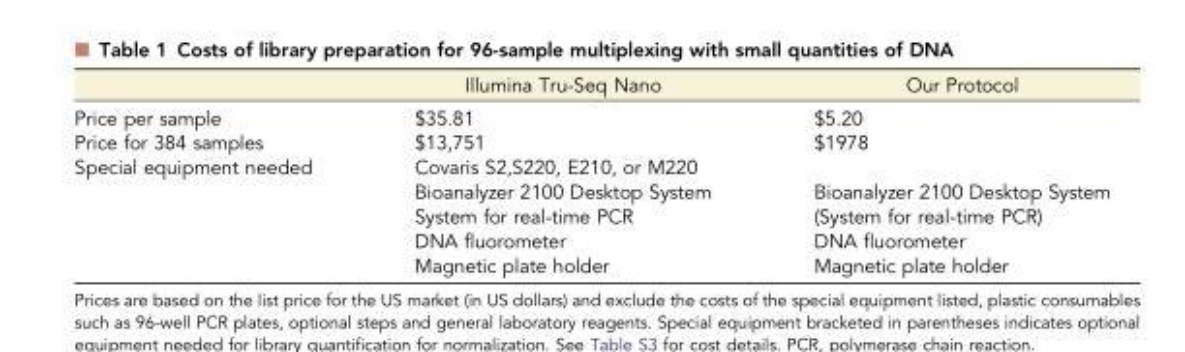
<table><thead><tr><td></td><td>Illumina Tru-Seq Nano</td><td>Our Protocol</td></tr></thead><tbody><tr><td>Price per sample</td><td>$35.81</td><td>$5.20</td></tr><tr><td>Price for 384 samples</td><td>$13,751</td><td>$1978</td></tr><tr><td rowspan="5">Special equipment needed</td><td>Covaris S2,S220, E210, or M220</td><td></td></tr><tr><td>Bioanalyzer 2100 Desktop System</td><td>Bioanalyzer 2100 Desktop System</td></tr><tr><td>System for real-time PCR</td><td>(System for real-time PCR)</td></tr><tr><td>DNA fluorometer</td><td>DNA fluorometer</td></tr><tr><td>Magnetic plate holder</td><td>Magnetic plate holder</td></tr></tbody></table>